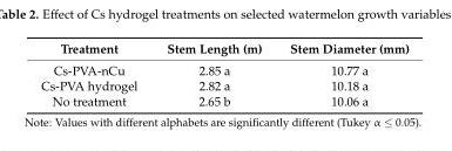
<table><thead><tr><td>Treatment</td><td>Stem Length (m)</td><td>Stem Diameter (mm)</td></tr></thead><tbody><tr><td>Cs-PVA-nCu</td><td>2.85 a</td><td>10.77 a</td></tr><tr><td>Cs-PVA hydrogel</td><td>2.82 a</td><td>10.18 a</td></tr><tr><td>No treatment</td><td>2.65 b</td><td>10.06 a</td></tr></tbody></table>